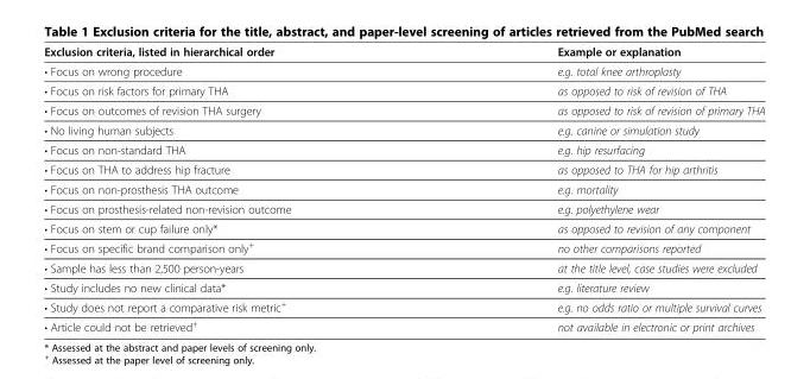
<table><thead><tr><td>Exclusion criteria, listed in hierarchical order</td><td>Example or explanation</td></tr></thead><tbody><tr><td>• Focus on wrong procedure</td><td>e.g. total knee arthroplasty</td></tr><tr><td>• Focus on risk factors for primary THA</td><td>as opposed to risk of revision of THA</td></tr><tr><td>• Focus on outcomes of revision THA surgery</td><td>as opposed to risk of revision of primary THA</td></tr><tr><td>• No living human subjects</td><td>e.g. canine or simulation study</td></tr><tr><td>• Focus on non-standard THA</td><td>e.g. hip resurfacing</td></tr><tr><td>• Focus on THA to address hip fracture</td><td>as opposed to THA for hip arthritis</td></tr><tr><td>• Focus on non-prosthesis THA outcome</td><td>e.g. mortality</td></tr><tr><td>• Focus on prosthesis-related non-revision outcome</td><td>e.g. polyethylene wear</td></tr><tr><td>• Focus on stem or cup failure only*</td><td>as opposed to revision of any component</td></tr><tr><td>• Focus on specific brand comparison only<sup>+</sup></td><td>no other comparisons reported</td></tr><tr><td>• Sample has less than 2,500 person-years</td><td>at the title level, case studies were excluded</td></tr><tr><td>• Study includes no new clinical data*</td><td>e.g. literature review</td></tr><tr><td>• Study does not report a comparative risk metric<sup>+</sup></td><td>e.g. no odds ratio or multiple survival curves</td></tr><tr><td>• Article could not be retrieved<sup>+</sup></td><td>not available in electronic or print archives</td></tr></tbody></table>